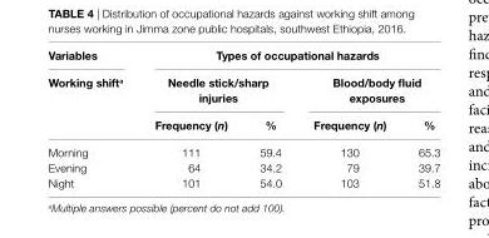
<table><thead><tr><td rowspan="3">Variables Working shift<sup>a</sup></td><td colspan="4">Types of occupational hazards</td></tr><tr><td colspan="2">needle stick/sharp injuries</td><td colspan="2">Blood/body fluid exposures</td></tr><tr><td>Frequency (n)</td><td>%</td><td>Frequency (n)</td><td>%</td></tr></thead><tbody><tr><td>Morning</td><td>111</td><td>59.4</td><td>130</td><td>65.3</td></tr><tr><td>Evening</td><td>64</td><td>34.2</td><td>79</td><td>39.7</td></tr><tr><td>Night</td><td>101</td><td>54.0</td><td>103</td><td>51.8</td></tr></tbody></table>